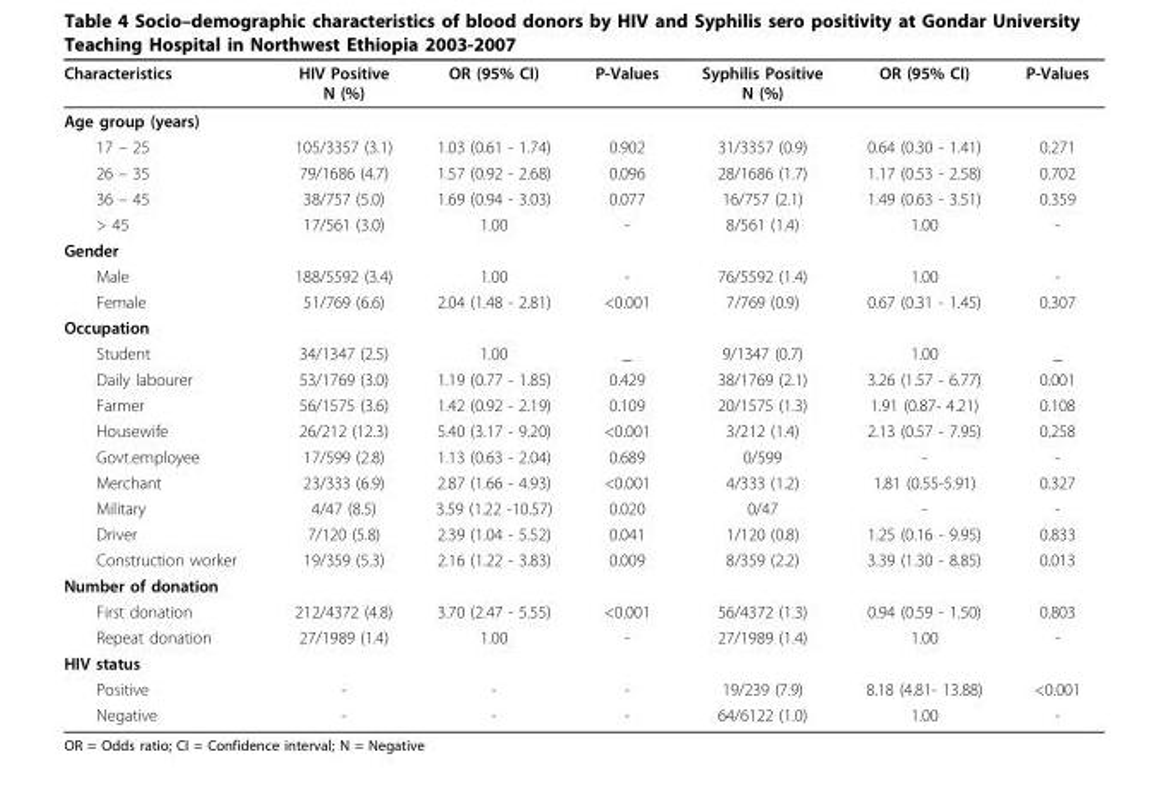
<table><thead><tr><td>Characteristics</td><td>HIV Positive N (%)</td><td>OR (95% CI)</td><td>P-Values</td><td>Syphilis Positive N (%)</td><td>OR (95% CI)</td><td>P-Values</td></tr></thead><tbody><tr><td colspan="7">Age group (years)</td></tr><tr><td>17 – 25</td><td>105/3357 (3.1)</td><td>1.03 (0.61 - 1.74)</td><td>0.902</td><td>31/3357 (0.9)</td><td>0.64 (0.30 - 1.41)</td><td>0.271</td></tr><tr><td>26 – 35</td><td>79/1686 (4.7)</td><td>1.57 (0.92 - 2.68)</td><td>0.096</td><td>28/1686 (1.7)</td><td>1.17 (0.53 - 2.58)</td><td>0.702</td></tr><tr><td>36 – 45</td><td>38/757 (5.0)</td><td>1.69 (0.94 - 3.03)</td><td>0.077</td><td>16/757 (2.1)</td><td>1.49 (0.63 - 3.51)</td><td>0.359</td></tr><tr><td>&gt; 45</td><td>17/561 (3.0)</td><td>1.00</td><td>-</td><td>8/561 (1.4)</td><td>1.00</td><td>-</td></tr><tr><td colspan="7">Gender</td></tr><tr><td>Male</td><td>188/5592 (3.4)</td><td>1.00</td><td>-</td><td>76/5592 (1.4)</td><td>1.00</td><td>-</td></tr><tr><td>Female</td><td>51/769 (6.6)</td><td>2.04 (1.48 - 2.81)</td><td>&lt;0.001</td><td>7/769 (0.9)</td><td>0.67 (0.31 - 1.45)</td><td>0.307</td></tr><tr><td colspan="7">Occupation</td></tr><tr><td>Student</td><td>34/1347 (2.5)</td><td>1.00</td><td>_</td><td>9/1347 (0.7)</td><td>1.00</td><td>_</td></tr><tr><td>Daily labourer</td><td>53/1769 (3.0)</td><td>1.19 (0.77 - 1.85)</td><td>0.429</td><td>38/1769 (2.1)</td><td>3.26 (1.57 - 6.77)</td><td>0.001</td></tr><tr><td>Farmer</td><td>56/1575 (3.6)</td><td>1.42 (0.92 - 2.19)</td><td>0.109</td><td>20/1575 (1.3)</td><td>1.91 (0.87- 4.21)</td><td>0.108</td></tr><tr><td>Housewife</td><td>26/212 (12.3)</td><td>5.40 (3.17 - 9.20)</td><td>&lt;0.001</td><td>3/212 (1.4)</td><td>2.13 (0.57 - 7.95)</td><td>0.258</td></tr><tr><td>Govt.employee</td><td>17/599 (2.8)</td><td>1.13 (0.63 - 2.04)</td><td>0.689</td><td>0/599</td><td>-</td><td>-</td></tr><tr><td>Merchant</td><td>23/333 (6.9)</td><td>2.87 (1.66 - 4.93)</td><td>&lt;0.001</td><td>4/333 (1.2)</td><td>1.81 (0.55-5.91)</td><td>0.327</td></tr><tr><td>Military</td><td>4/47 (8.5)</td><td>3.59 (1.22 -10.57)</td><td>0.020</td><td>0/47</td><td>-</td><td>-</td></tr><tr><td>Driver</td><td>7/120 (5.8)</td><td>2.39 (1.04 - 5.52)</td><td>0.041</td><td>1/120 (0.8)</td><td>1.25 (0.16 - 9.95)</td><td>0.833</td></tr><tr><td>Construction worker</td><td>19/359 (5.3)</td><td>2.16 (1.22 - 3.83)</td><td>0.009</td><td>8/359 (2.2)</td><td>3.39 (1.30 - 8.85)</td><td>0.013</td></tr><tr><td colspan="7">Number of donation</td></tr><tr><td>First donation</td><td>212/4372 (4.8)</td><td>3.70 (2.47 - 5.55)</td><td>&lt;0.001</td><td>56/4372 (1.3)</td><td>0.94 (0.59 - 1.50)</td><td>0.803</td></tr><tr><td>Repeat donation</td><td>27/1989 (1.4)</td><td>1.00</td><td>-</td><td>27/1989 (1.4)</td><td>1.00</td><td>-</td></tr><tr><td colspan="7">HIV status</td></tr><tr><td>Positive</td><td>-</td><td>-</td><td>-</td><td>19/239 (7.9)</td><td>8.18 (4.81- 13.88)</td><td>&lt;0.001</td></tr><tr><td>Negative</td><td>-</td><td>-</td><td>-</td><td>64/6122 (1.0)</td><td>1.00</td><td>-</td></tr></tbody></table>